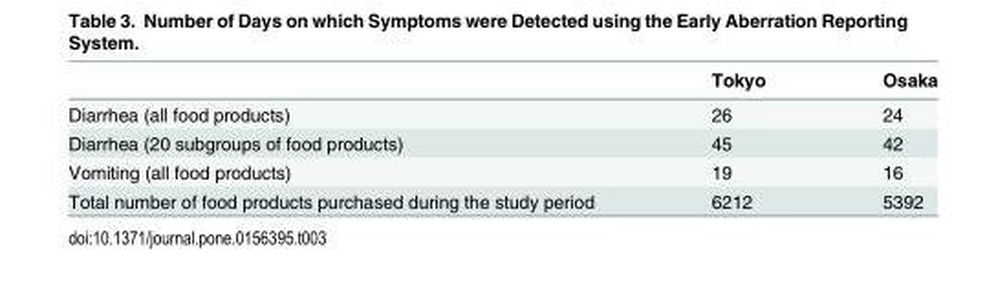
<table><thead><tr><td></td><td>Tokyo</td><td>Osaka</td></tr></thead><tbody><tr><td>Diarrhea (all food products)</td><td>26</td><td>24</td></tr><tr><td>Diarrhea (20 subgroups of food products)</td><td>45</td><td>42</td></tr><tr><td>Vomiting (all food products)</td><td>19</td><td>16</td></tr><tr><td>Total number of food products purchased during the study period</td><td>6212</td><td>5392</td></tr></tbody></table>